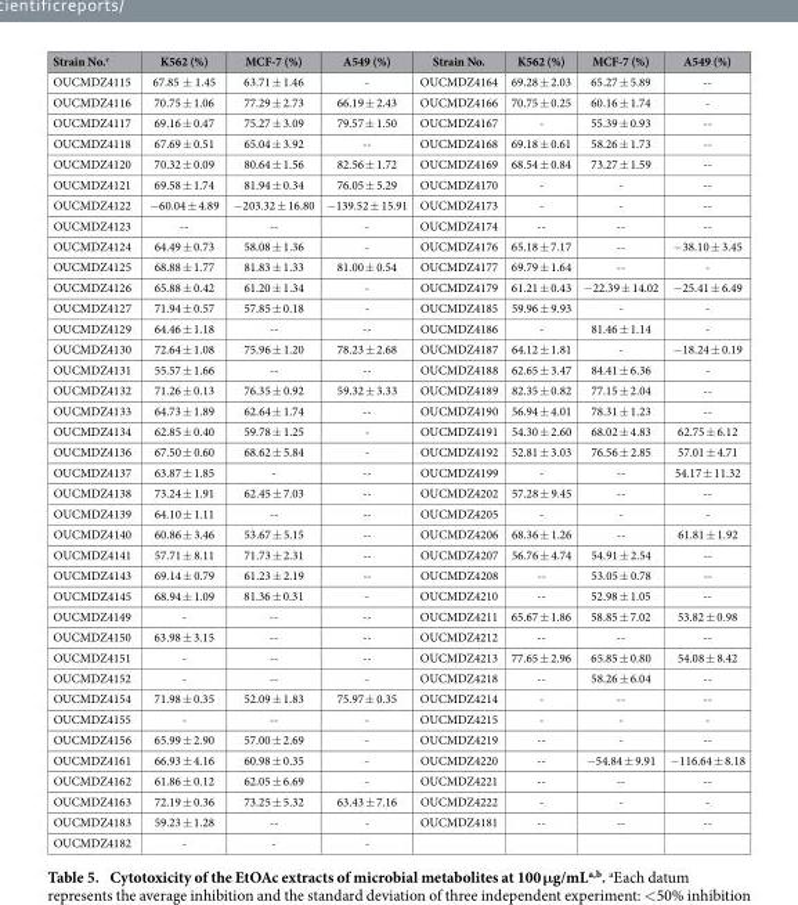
<table><thead><tr><td>Strain No.<sup>c</sup></td><td>K562 (%)</td><td>MCF-7 (%)</td><td>A549 (%)</td><td>Strain No.</td><td>K562 (%)</td><td>MCF-7 (%)</td><td>A549 (%)</td></tr></thead><tbody><tr><td>OUCMDZ4115</td><td>67.85 ± 1.45</td><td>63.71 ± 1.46</td><td>-</td><td>OUCMDZ4164</td><td>69.28 ± 2.03</td><td>65.27 ± 5.89</td><td>--</td></tr><tr><td>OUCMDZ4116</td><td>70.75 ± 1.06</td><td>77.29 ± 2.73</td><td>66.19 ± 2.43</td><td>OUCMDZ4166</td><td>70.75 ± 0.25</td><td>60.16 ± 1.74</td><td>-</td></tr><tr><td>OUCMDZ4117</td><td>69.16 ± 0.47</td><td>75.27 ± 3.09</td><td>79.57 ± 1.50</td><td>OUCMDZ4167</td><td>-</td><td>55.39 ± 0.93</td><td>--</td></tr><tr><td>OUCMDZ4118</td><td>67.69 ± 0.51</td><td>65.04 ± 3.92</td><td>--</td><td>OUCMDZ4168</td><td>69.18 ± 0.61</td><td>58.26 ± 1.73</td><td>--</td></tr><tr><td>OUCMDZ4120</td><td>70.32 ± 0.09</td><td>80.64 ± 1.56</td><td>82.56 ± 1.72</td><td>OUCMDZ4169</td><td>68.54 ± 0.84</td><td>73.27 ± 1.59</td><td>--</td></tr><tr><td>OUCMDZ4121</td><td>69.58 ± 1.74</td><td>81.94 ± 0.34</td><td>76.05 ± 5.29</td><td>OUCMDZ4170</td><td>-</td><td>-</td><td>--</td></tr><tr><td>OUCMDZ4122</td><td>− 60.04 ± 4.89</td><td>− 203.32 ± 16.80</td><td>− 139.52 ± 15.91</td><td>OUCMDZ4173</td><td>-</td><td>-</td><td>--</td></tr><tr><td>OUCMDZ4123</td><td>--</td><td>--</td><td>-</td><td>OUCMDZ4174</td><td>--</td><td>--</td><td>--</td></tr><tr><td>OUCMDZ4124</td><td>64.49 ± 0.73</td><td>58.08 ± 1.36</td><td>-</td><td>OUCMDZ4176</td><td>65.18 ± 7.17</td><td>--</td><td>− 38.10 ± 3.45</td></tr><tr><td>OUCMDZ4125</td><td>68.88 ± 1.77</td><td>81.83 ± 1.33</td><td>81.00 ± 0.54</td><td>OUCMDZ4177</td><td>69.79 ± 1.64</td><td>--</td><td>-</td></tr><tr><td>OUCMDZ4126</td><td>65.88 ± 0.42</td><td>61.20 ± 1.34</td><td>-</td><td>OUCMDZ4179</td><td>61.21 ± 0.43</td><td>− 22.39 ± 14.02</td><td>− 25.41 ± 6.49</td></tr><tr><td>OUCMDZ4127</td><td>71.94 ± 0.57</td><td>57.85 ± 0.18</td><td>-</td><td>OUCMDZ4185</td><td>59.96 ± 9.93</td><td>-</td><td>-</td></tr><tr><td>OUCMDZ4129</td><td>64.46 ± 1.18</td><td>--</td><td>--</td><td>OUCMDZ4186</td><td>-</td><td>81.46 ± 1.14</td><td>-</td></tr><tr><td>OUCMDZ4130</td><td>72.64 ± 1.08</td><td>75.96 ± 1.20</td><td>78.23 ± 2.68</td><td>OUCMDZ4187</td><td>64.12 ± 1.81</td><td>-</td><td>− 18.24 ± 0.19</td></tr><tr><td>OUCMDZ4131</td><td>55.57 ± 1.66</td><td>--</td><td>--</td><td>OUCMDZ4188</td><td>62.65 ± 3.47</td><td>84.41 ± 6.36</td><td>-</td></tr><tr><td>OUCMDZ4132</td><td>71.26 ± 0.13</td><td>76.35 ± 0.92</td><td>59.32 ± 3.33</td><td>OUCMDZ4189</td><td>82.35 ± 0.82</td><td>77.15 ± 2.04</td><td>--</td></tr><tr><td>OUCMDZ4133</td><td>64.73 ± 1.89</td><td>62.64 ± 1.74</td><td>--</td><td>OUCMDZ4190</td><td>56.94 ± 4.01</td><td>78.31 ± 1.23</td><td>--</td></tr><tr><td>OUCMDZ4134</td><td>62.85 ± 0.40</td><td>59.78 ± 1.25</td><td>-</td><td>OUCMDZ4191</td><td>54.30 ± 2.60</td><td>68.02 ± 4.83</td><td>62.75 ± 6.12</td></tr><tr><td>OUCMDZ4136</td><td>67.50 ± 0.60</td><td>68.62 ± 5.84</td><td>-</td><td>OUCMDZ4192</td><td>52.81 ± 3.03</td><td>76.56 ± 2.85</td><td>57.01 ± 4.71</td></tr><tr><td>OUCMDZ4137</td><td>63.87 ± 1.85</td><td>-</td><td>--</td><td>OUCMDZ4199</td><td>-</td><td>--</td><td>54.17 ± 11.32</td></tr><tr><td>OUCMDZ4138</td><td>73.24 ± 1.91</td><td>62.45 ± 7.03</td><td>--</td><td>OUCMDZ4202</td><td>57.28 ± 9.45</td><td>--</td><td>--</td></tr><tr><td>OUCMDZ4139</td><td>64.10 ± 1.11</td><td>--</td><td>--</td><td>OUCMDZ4205</td><td>-</td><td>-</td><td>-</td></tr><tr><td>OUCMDZ4140</td><td>60.86 ± 3.46</td><td>53.67 ± 5.15</td><td>--</td><td>OUCMDZ4206</td><td>68.36 ± 1.26</td><td>--</td><td>61.81 ± 1.92</td></tr><tr><td>OUCMDZ4141</td><td>57.71 ± 8.11</td><td>71.73 ± 2.31</td><td>--</td><td>OUCMDZ4207</td><td>56.76 ± 4.74</td><td>54.91 ± 2.54</td><td>--</td></tr><tr><td>OUCMDZ4143</td><td>69.14 ± 0.79</td><td>61.23 ± 2.19</td><td>--</td><td>OUCMDZ4208</td><td>--</td><td>53.05 ± 0.78</td><td>--</td></tr><tr><td>OUCMDZ4145</td><td>68.94 ± 1.09</td><td>81.36 ± 0.31</td><td>-</td><td>OUCMDZ4210</td><td>--</td><td>52.98 ± 1.05</td><td>--</td></tr><tr><td>OUCMDZ4149</td><td>-</td><td>--</td><td>--</td><td>OUCMDZ4211</td><td>65.67 ± 1.86</td><td>58.85 ± 7.02</td><td>53.82 ± 0.98</td></tr><tr><td>OUCMDZ4150</td><td>63.98 ± 3.15</td><td>--</td><td>--</td><td>OUCMDZ4212</td><td>--</td><td>--</td><td>--</td></tr><tr><td>OUCMDZ4151</td><td>-</td><td>--</td><td>--</td><td>OUCMDZ4213</td><td>77.65 ± 2.96</td><td>65.85 ± 0.80</td><td>54.08 ± 8.42</td></tr><tr><td>OUCMDZ4152</td><td>-</td><td>--</td><td>-</td><td>OUCMDZ4218</td><td>--</td><td>58.26 ± 6.04</td><td>--</td></tr><tr><td>OUCMDZ4154</td><td>71.98 ± 0.35</td><td>52.09 ± 1.83</td><td>75.97 ± 0.35</td><td>OUCMDZ4214</td><td>-</td><td>--</td><td>--</td></tr><tr><td>OUCMDZ4155</td><td>-</td><td>--</td><td>-</td><td>OUCMDZ4215</td><td>-</td><td>-</td><td>-</td></tr><tr><td>OUCMDZ4156</td><td>65.99 ± 2.90</td><td>57.00 ± 2.69</td><td>-</td><td>OUCMDZ4219</td><td>--</td><td>-</td><td>--</td></tr><tr><td>OUCMDZ4161</td><td>66.93 ± 4.16</td><td>60.98 ± 0.35</td><td>-</td><td>OUCMDZ4220</td><td>--</td><td>− 54.84 ± 9.91</td><td>− 116.64 ± 8.18</td></tr><tr><td>OUCMDZ4162</td><td>61.86 ± 0.12</td><td>62.05 ± 6.69</td><td>-</td><td>OUCMDZ4221</td><td>--</td><td>--</td><td>--</td></tr><tr><td>OUCMDZ4163</td><td>72.19 ± 0.36</td><td>73.25 ± 5.32</td><td>63.43 ± 7.16</td><td>OUCMDZ4222</td><td>-</td><td>-</td><td>-</td></tr><tr><td>OUCMDZ4183</td><td>59.23 ± 1.28</td><td>--</td><td>-</td><td>OUCMDZ4181</td><td>--</td><td>--</td><td>--</td></tr><tr><td>OUCMDZ4182</td><td>-</td><td>-</td><td>-</td><td></td><td></td><td></td><td></td></tr></tbody></table>